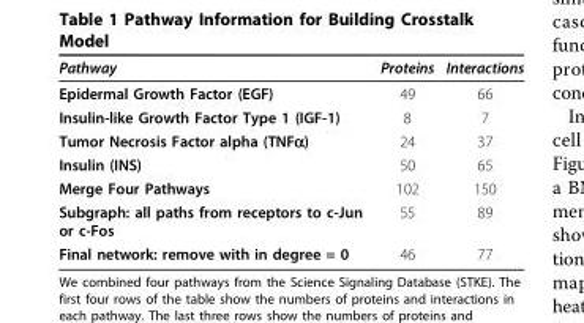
<table><thead><tr><td>Pathway</td><td>Proteins</td><td>Interactions</td></tr></thead><tbody><tr><td>Epidermal Growth Factor (EGF)</td><td>49</td><td>66</td></tr><tr><td>Insulin-like Growth Factor Type 1 (IGF-1)</td><td>8</td><td>7</td></tr><tr><td>Tumor Necrosis Factor alpha (TNFα)</td><td>24</td><td>37</td></tr><tr><td>Insulin (INS)</td><td>50</td><td>65</td></tr><tr><td>Merge Four Pathways</td><td>102</td><td>150</td></tr><tr><td>Subgraph: all paths from receptors to c-Jun or c-Fos</td><td>55</td><td>89</td></tr><tr><td>Final network: remove with in degree = 0</td><td>46</td><td>77</td></tr></tbody></table>